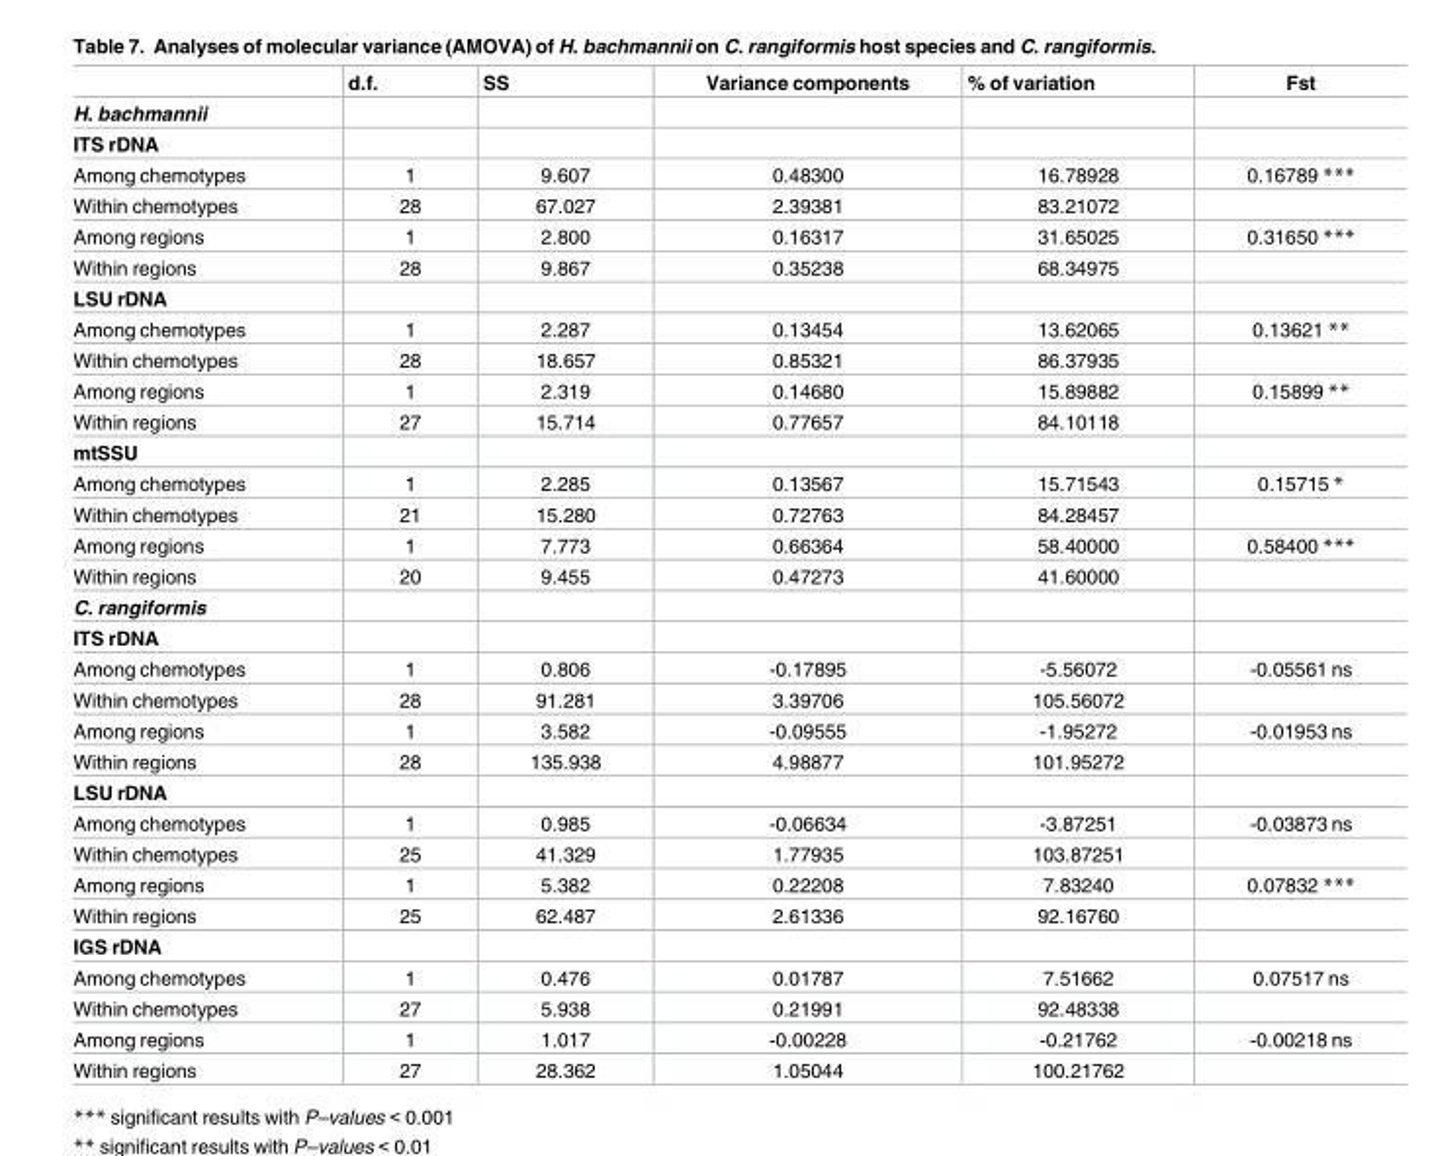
<table><thead><tr><td></td><td>d.f.</td><td>SS</td><td>Variance components</td><td>% of variation</td><td>Fst</td></tr></thead><tbody><tr><td colspan="6">H. bachmannii</td></tr><tr><td colspan="6">ITS rDNA</td></tr><tr><td>Among chemotypes</td><td>1</td><td>9.607</td><td>0.48300</td><td>16.78928</td><td>0.16789 ***</td></tr><tr><td>Within chemotypes</td><td>28</td><td>67.027</td><td>2.39381</td><td>83.21072</td><td></td></tr><tr><td>Among regions</td><td>1</td><td>2.800</td><td>0.16317</td><td>31.65025</td><td>0.31650 ***</td></tr><tr><td>Within regions</td><td>28</td><td>9.867</td><td>0.35238</td><td>68.34975</td><td></td></tr><tr><td colspan="6">LSU rDNA</td></tr><tr><td>Among chemotypes</td><td>1</td><td>2.287</td><td>0.13454</td><td>13.62065</td><td>0.13621 **</td></tr><tr><td>Within chemotypes</td><td>28</td><td>18.657</td><td>0.85321</td><td>86.37935</td><td></td></tr><tr><td>Among regions</td><td>1</td><td>2.319</td><td>0.14680</td><td>15.89882</td><td>0.15899 **</td></tr><tr><td>Within regions</td><td>27</td><td>15.714</td><td>0.77657</td><td>84.10118</td><td></td></tr><tr><td colspan="6">mtSSU</td></tr><tr><td>Among chemotypes</td><td>1</td><td>2.285</td><td>0.13567</td><td>15.71543</td><td>0.15715 *</td></tr><tr><td>Within chemotypes</td><td>21</td><td>15.280</td><td>0.72763</td><td>84.28457</td><td></td></tr><tr><td>Among regions</td><td>1</td><td>7.773</td><td>0.66364</td><td>58.40000</td><td>0.58400 ***</td></tr><tr><td>Within regions</td><td>20</td><td>9.455</td><td>0.47273</td><td>41.60000</td><td></td></tr><tr><td colspan="6">C. rangiformis</td></tr><tr><td colspan="6">ITS rDNA</td></tr><tr><td>Among chemotypes</td><td>1</td><td>0.806</td><td>-0.17895</td><td>-5.56072</td><td>-0.05561 ns</td></tr><tr><td>Within chemotypes</td><td>28</td><td>91.281</td><td>3.39706</td><td>105.56072</td><td></td></tr><tr><td>Among regions</td><td>1</td><td>3.582</td><td>-0.09555</td><td>-1.95272</td><td>-0.01953 ns</td></tr><tr><td>Within regions</td><td>28</td><td>135.938</td><td>4.98877</td><td>101.95272</td><td></td></tr><tr><td colspan="6">LSU rDNA</td></tr><tr><td>Among chemotypes</td><td>1</td><td>0.985</td><td>-0.06634</td><td>-3.87251</td><td>-0.03873 ns</td></tr><tr><td>Within chemotypes</td><td>25</td><td>41.329</td><td>1.77935</td><td>103.87251</td><td></td></tr><tr><td>Among regions</td><td>1</td><td>5.382</td><td>0.22208</td><td>7.83240</td><td>0.07832 ***</td></tr><tr><td>Within regions</td><td>25</td><td>62.487</td><td>2.61336</td><td>92.16760</td><td></td></tr><tr><td colspan="6">IGS rDNA</td></tr><tr><td>Among chemotypes</td><td>1</td><td>0.476</td><td>0.01787</td><td>7.51662</td><td>0.07517 ns</td></tr><tr><td>Within chemotypes</td><td>27</td><td>5.938</td><td>0.21991</td><td>92.48338</td><td></td></tr><tr><td>Among regions</td><td>1</td><td>1.017</td><td>-0.00228</td><td>-0.21762</td><td>-0.00218 ns</td></tr><tr><td>Within regions</td><td>27</td><td>28.362</td><td>1.05044</td><td>100.21762</td><td></td></tr></tbody></table>